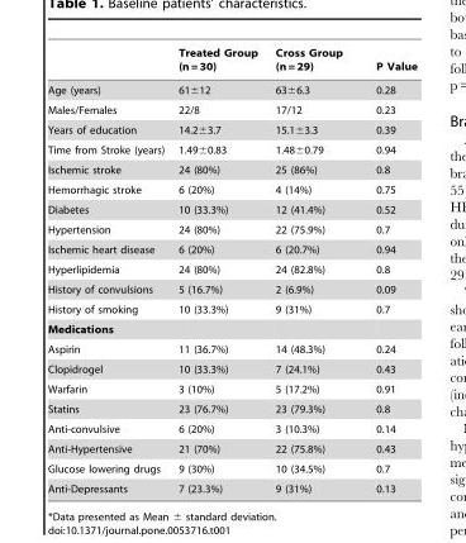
<table><thead><tr><td></td><td>Treated Group (n = 30)</td><td>Cross Group (n = 29)</td><td>P Value</td></tr></thead><tbody><tr><td>Age (years)</td><td>61±12</td><td>63±6.3</td><td>0.28</td></tr><tr><td>Males/Females</td><td>22/8</td><td>17/12</td><td>0.23</td></tr><tr><td>Years of education</td><td>14.2±3.7</td><td>15.1±3.3</td><td>0.39</td></tr><tr><td>Time from Stroke (years)</td><td>1.49±0.83</td><td>1.48±0.79</td><td>0.94</td></tr><tr><td>Ischemic stroke</td><td>24 (80%)</td><td>25 (86%)</td><td>0.8</td></tr><tr><td>Hemorrhagic stroke</td><td>6 (20%)</td><td>4 (14%)</td><td>0.75</td></tr><tr><td>Diabetes</td><td>10 (33.3%)</td><td>12 (41.4%)</td><td>0.52</td></tr><tr><td>Hypertension</td><td>24 (80%)</td><td>22 (75.9%)</td><td>0.7</td></tr><tr><td>Ischemic heart disease</td><td>6 (20%)</td><td>6 (20.7%)</td><td>0.94</td></tr><tr><td>Hyperlipidemia</td><td>24 (80%)</td><td>24 (82.8%)</td><td>0.8</td></tr><tr><td>History of convulsions</td><td>5 (16.7%)</td><td>2 (6.9%)</td><td>0.09</td></tr><tr><td>History of smoking</td><td>10 (33.3%)</td><td>9 (31%)</td><td>0.7</td></tr><tr><td colspan="4">Medications</td></tr><tr><td>Aspirin</td><td>11 (36.7%)</td><td>14 (48.3%)</td><td>0.24</td></tr><tr><td>Clopidrogel</td><td>10 (33.3%)</td><td>7 (24.1%)</td><td>0.43</td></tr><tr><td>Warfarin</td><td>3 (10%)</td><td>5 (17.2%)</td><td>0.91</td></tr><tr><td>Statins</td><td>23 (76.7%)</td><td>23 (79.3%)</td><td>0.8</td></tr><tr><td>Anti-convulsive</td><td>6 (20%)</td><td>3 (10.3%)</td><td>0.14</td></tr><tr><td>Anti-Hypertensive</td><td>21 (70%)</td><td>22 (75.8%)</td><td>0.43</td></tr><tr><td>Glucose lowering drugs</td><td>9 (30%)</td><td>10 (34.5%)</td><td>0.7</td></tr><tr><td>Anti-Depressants</td><td>7 (23.3%)</td><td>9 (31%)</td><td>0.13</td></tr></tbody></table>